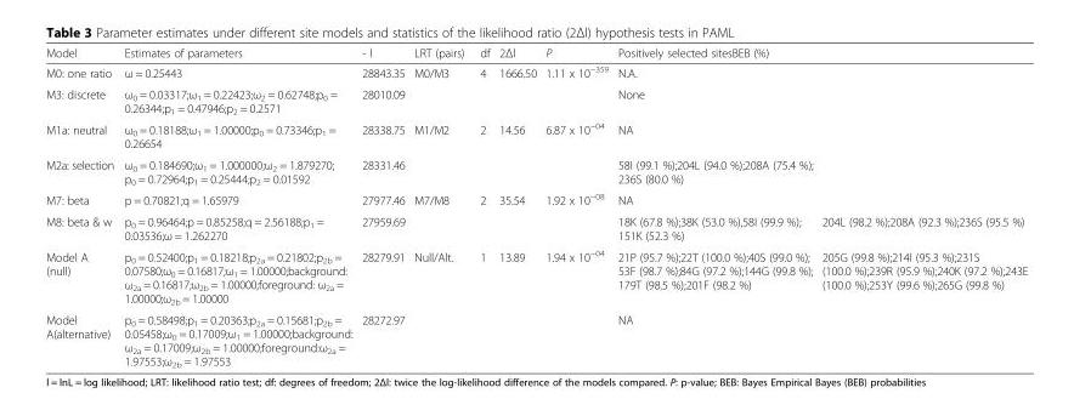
<table><thead><tr><td>Model</td><td>Estimates of parameters</td><td>- l</td><td>LRT (pairs)</td><td>df</td><td>2Δl</td><td>P</td><td colspan="2">Positively selected sitesBEB (%)</td></tr></thead><tbody><tr><td>M0: one ratio</td><td>ω = 0.25443</td><td>28843.35</td><td>M0/M3</td><td>4</td><td>1666.50</td><td>1.11 x 10<sup>−359</sup></td><td colspan="2">N.A.</td></tr><tr><td>M3: discrete</td><td>ω<sub>0</sub> = 0.03317;ω<sub>1</sub> = 0.22423;ω<sub>2</sub> = 0.62748;p<sub>0</sub> = 0.26344;p<sub>1</sub> = 0.47946;p<sub>2</sub> = 0.2571</td><td>28010.09</td><td></td><td></td><td></td><td></td><td colspan="2">None</td></tr><tr><td>M1a: neutral</td><td>ω<sub>0</sub> = 0.18188;ω<sub>1</sub> = 1.00000;p<sub>0</sub> = 0.73346;p<sub>1</sub> = 0.26654</td><td>28338.75</td><td>M1/M2</td><td>2</td><td>14.56</td><td>6.87 x 10<sup>−04</sup></td><td colspan="2">NA</td></tr><tr><td>M2a: selection</td><td>ω<sub>0</sub> = 0.184690;ω<sub>1</sub> = 1.000000;ω<sub>2</sub> = 1.879270; p<sub>0</sub> = 0.72964;p<sub>1</sub> = 0.25444;p<sub>2</sub> = 0.01592</td><td>28331.46</td><td></td><td></td><td></td><td></td><td colspan="2">58I (99.1 %);204L (94.0 %);208A (75.4 %); 236S (80.0 %)</td></tr><tr><td>M7: beta</td><td>p = 0.70821;q = 1.65979</td><td>27977.46</td><td>M7/M8</td><td>2</td><td>35.54</td><td>1.92 x 10<sup>−08</sup></td><td colspan="2">NA</td></tr><tr><td>M8: beta &amp; w</td><td>p<sub>0</sub> = 0.96464;p = 0.85258;q = 2.56188;p<sub>1</sub> = 0.03536;ω = 1.262270</td><td>27959.69</td><td></td><td></td><td></td><td></td><td>18K (67.8 %);38K (53.0 %),58I (99.9 %); 151K (52.3 %)</td><td>204L (98.2 %);208A (92.3 %);236S (95.5 %)</td></tr><tr><td>Model A (null)</td><td>p<sub>0</sub> = 0.52400;p<sub>1</sub> = 0.18218;p<sub>2a</sub> = 0.21802;p<sub>2b</sub> = 0.07580;ω<sub>0</sub> = 0.16817;ω<sub>1</sub> = 1.00000;background: ω<sub>2a</sub> = 0.16817;ω<sub>2b</sub> = 1.00000;foreground: ω<sub>2a</sub> = 1.00000;ω<sub>2b</sub> = 1.00000</td><td>28279.91</td><td>Null/Alt.</td><td>1</td><td>13.89</td><td>1.94 x 10<sup>−04</sup></td><td>21P (95.7 %);22T (100.0 %);40S (99.0 %); 53F (98.7 %);84G (97.2 %);144G (99.8 %); 179T (98.5 %);201F (98.2 %)</td><td>205G (99.8 %);214I (95.3 %);231S (100.0 %);239R (95.9 %);240K (97.2 %);243E (100.0 %);253Y (99.6 %);265G (99.8 %)</td></tr><tr><td>Model A(alternative)</td><td>p<sub>0</sub> = 0.58498;p<sub>1</sub> = 0.20363;p<sub>2a</sub> = 0.15681;p<sub>2b</sub> = 0.05458;ω<sub>0</sub> = 0.17009;ω<sub>1</sub> = 1.00000;background: ω<sub>2a</sub> = 0.17009;ω<sub>2b</sub> = 1.00000;foreground:ω<sub>2a</sub> = 1.97553;ω<sub>2b</sub> = 1.97553</td><td>28272.97</td><td></td><td></td><td></td><td></td><td colspan="2">NA</td></tr></tbody></table>